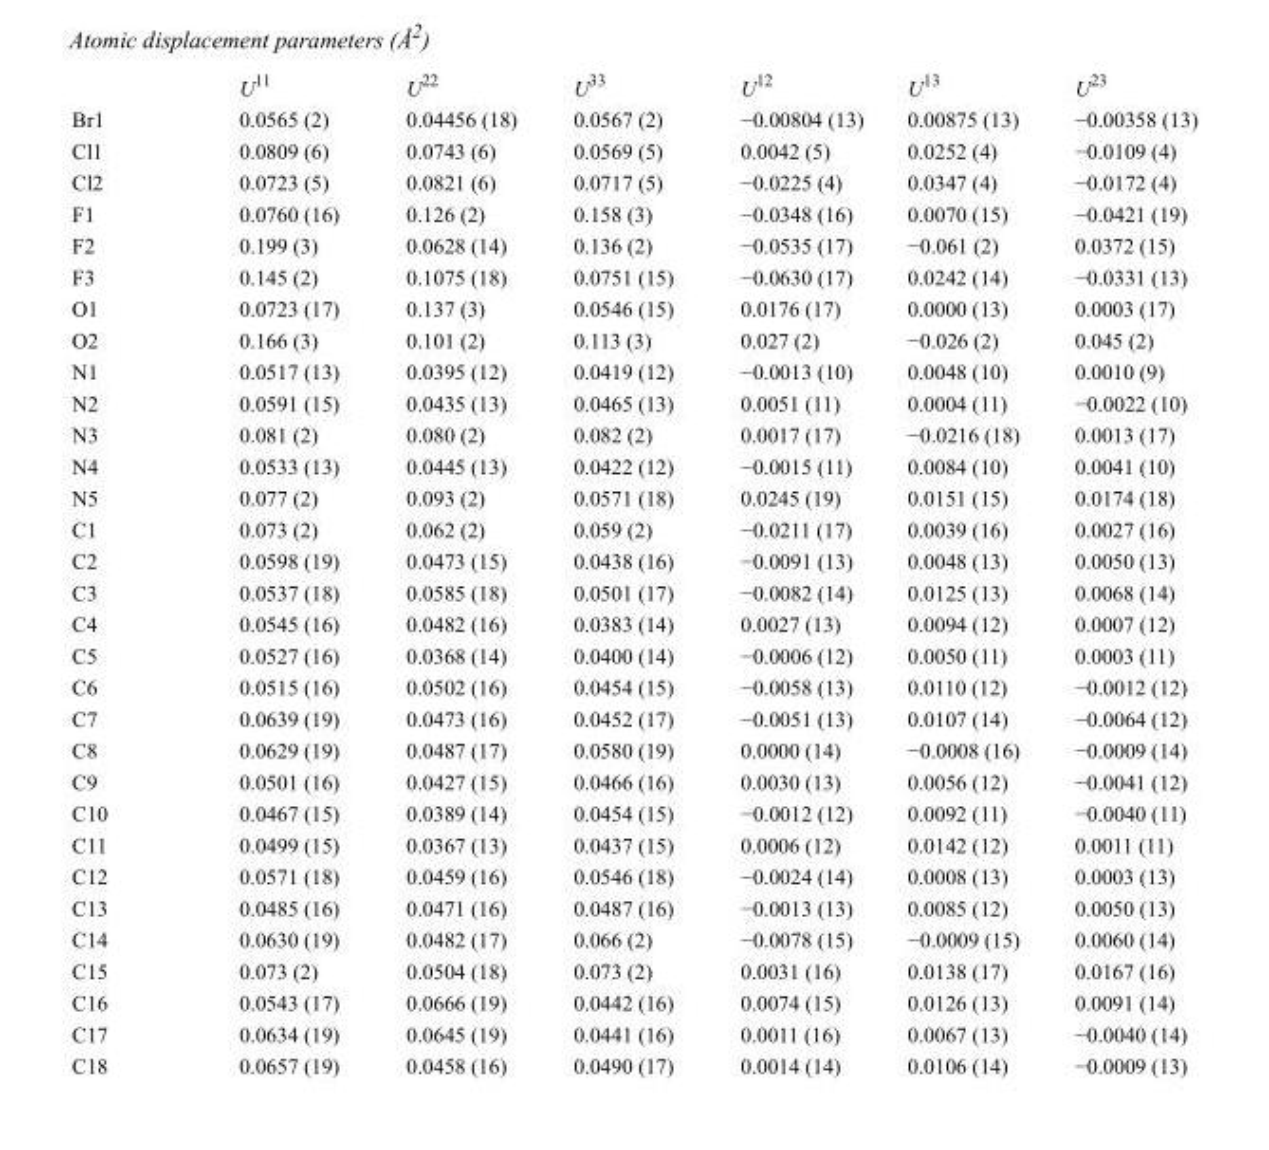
<table><thead><tr><td></td><td>U<sup>11</sup></td><td>U<sup>22</sup></td><td>U<sup>33</sup></td><td>U<sup>12</sup></td><td>U<sup>13</sup></td><td>U<sup>23</sup></td></tr></thead><tbody><tr><td>Br1</td><td>0.0565 (2)</td><td>0.04456 (18)</td><td>0.0567 (2)</td><td>−0.00804 (13)</td><td>0.00875 (13)</td><td>−0.00358 (13)</td></tr><tr><td>Cl1</td><td>0.0809 (6)</td><td>0.0743 (6)</td><td>0.0569 (5)</td><td>0.0042 (5)</td><td>0.0252 (4)</td><td>−0.0109 (4)</td></tr><tr><td>Cl2</td><td>0.0723 (5)</td><td>0.0821 (6)</td><td>0.0717 (5)</td><td>−0.0225 (4)</td><td>0.0347 (4)</td><td>−0.0172 (4)</td></tr><tr><td>F1</td><td>0.0760 (16)</td><td>0.126 (2)</td><td>0.158 (3)</td><td>−0.0348 (16)</td><td>0.0070 (15)</td><td>−0.0421 (19)</td></tr><tr><td>F2</td><td>0.199 (3)</td><td>0.0628 (14)</td><td>0.136 (2)</td><td>−0.0535 (17)</td><td>−0.061 (2)</td><td>0.0372 (15)</td></tr><tr><td>F3</td><td>0.145 (2)</td><td>0.1075 (18)</td><td>0.0751 (15)</td><td>−0.0630 (17)</td><td>0.0242 (14)</td><td>−0.0331 (13)</td></tr><tr><td>O1</td><td>0.0723 (17)</td><td>0.137 (3)</td><td>0.0546 (15)</td><td>0.0176 (17)</td><td>0.0000 (13)</td><td>0.0003 (17)</td></tr><tr><td>O2</td><td>0.166 (3)</td><td>0.101 (2)</td><td>0.113 (3)</td><td>0.027 (2)</td><td>−0.026 (2)</td><td>0.045 (2)</td></tr><tr><td>N1</td><td>0.0517 (13)</td><td>0.0395 (12)</td><td>0.0419 (12)</td><td>−0.0013 (10)</td><td>0.0048 (10)</td><td>0.0010 (9)</td></tr><tr><td>N2</td><td>0.0591 (15)</td><td>0.0435 (13)</td><td>0.0465 (13)</td><td>0.0051 (11)</td><td>0.0004 (11)</td><td>−0.0022 (10)</td></tr><tr><td>N3</td><td>0.081 (2)</td><td>0.080 (2)</td><td>0.082 (2)</td><td>0.0017 (17)</td><td>−0.0216 (18)</td><td>0.0013 (17)</td></tr><tr><td>N4</td><td>0.0533 (13)</td><td>0.0445 (13)</td><td>0.0422 (12)</td><td>−0.0015 (11)</td><td>0.0084 (10)</td><td>0.0041 (10)</td></tr><tr><td>N5</td><td>0.077 (2)</td><td>0.093 (2)</td><td>0.0571 (18)</td><td>0.0245 (19)</td><td>0.0151 (15)</td><td>0.0174 (18)</td></tr><tr><td>C1</td><td>0.073 (2)</td><td>0.062 (2)</td><td>0.059 (2)</td><td>−0.0211 (17)</td><td>0.0039 (16)</td><td>0.0027 (16)</td></tr><tr><td>C2</td><td>0.0598 (19)</td><td>0.0473 (15)</td><td>0.0438 (16)</td><td>−0.0091 (13)</td><td>0.0048 (13)</td><td>0.0050 (13)</td></tr><tr><td>C3</td><td>0.0537 (18)</td><td>0.0585 (18)</td><td>0.0501 (17)</td><td>−0.0082 (14)</td><td>0.0125 (13)</td><td>0.0068 (14)</td></tr><tr><td>C4</td><td>0.0545 (16)</td><td>0.0482 (16)</td><td>0.0383 (14)</td><td>0.0027 (13)</td><td>0.0094 (12)</td><td>0.0007 (12)</td></tr><tr><td>C5</td><td>0.0527 (16)</td><td>0.0368 (14)</td><td>0.0400 (14)</td><td>−0.0006 (12)</td><td>0.0050 (11)</td><td>0.0003 (11)</td></tr><tr><td>C6</td><td>0.0515 (16)</td><td>0.0502 (16)</td><td>0.0454 (15)</td><td>−0.0058 (13)</td><td>0.0110 (12)</td><td>−0.0012 (12)</td></tr><tr><td>C7</td><td>0.0639 (19)</td><td>0.0473 (16)</td><td>0.0452 (17)</td><td>−0.0051 (13)</td><td>0.0107 (14)</td><td>−0.0064 (12)</td></tr><tr><td>C8</td><td>0.0629 (19)</td><td>0.0487 (17)</td><td>0.0580 (19)</td><td>0.0000 (14)</td><td>−0.0008 (16)</td><td>−0.0009 (14)</td></tr><tr><td>C9</td><td>0.0501 (16)</td><td>0.0427 (15)</td><td>0.0466 (16)</td><td>0.0030 (13)</td><td>0.0056 (12)</td><td>−0.0041 (12)</td></tr><tr><td>C10</td><td>0.0467 (15)</td><td>0.0389 (14)</td><td>0.0454 (15)</td><td>−0.0012 (12)</td><td>0.0092 (11)</td><td>−0.0040 (11)</td></tr><tr><td>C11</td><td>0.0499 (15)</td><td>0.0367 (13)</td><td>0.0437 (15)</td><td>0.0006 (12)</td><td>0.0142 (12)</td><td>0.0011 (11)</td></tr><tr><td>C12</td><td>0.0571 (18)</td><td>0.0459 (16)</td><td>0.0546 (18)</td><td>−0.0024 (14)</td><td>0.0008 (13)</td><td>0.0003 (13)</td></tr><tr><td>C13</td><td>0.0485 (16)</td><td>0.0471 (16)</td><td>0.0487 (16)</td><td>−0.0013 (13)</td><td>0.0085 (12)</td><td>0.0050 (13)</td></tr><tr><td>C14</td><td>0.0630 (19)</td><td>0.0482 (17)</td><td>0.066 (2)</td><td>−0.0078 (15)</td><td>−0.0009 (15)</td><td>0.0060 (14)</td></tr><tr><td>C15</td><td>0.073 (2)</td><td>0.0504 (18)</td><td>0.073 (2)</td><td>0.0031 (16)</td><td>0.0138 (17)</td><td>0.0167 (16)</td></tr><tr><td>C16</td><td>0.0543 (17)</td><td>0.0666 (19)</td><td>0.0442 (16)</td><td>0.0074 (15)</td><td>0.0126 (13)</td><td>0.0091 (14)</td></tr><tr><td>C17</td><td>0.0634 (19)</td><td>0.0645 (19)</td><td>0.0441 (16)</td><td>0.0011 (16)</td><td>0.0067 (13)</td><td>−0.0040 (14)</td></tr><tr><td>C18</td><td>0.0657 (19)</td><td>0.0458 (16)</td><td>0.0490 (17)</td><td>0.0014 (14)</td><td>0.0106 (14)</td><td>−0.0009 (13)</td></tr></tbody></table>